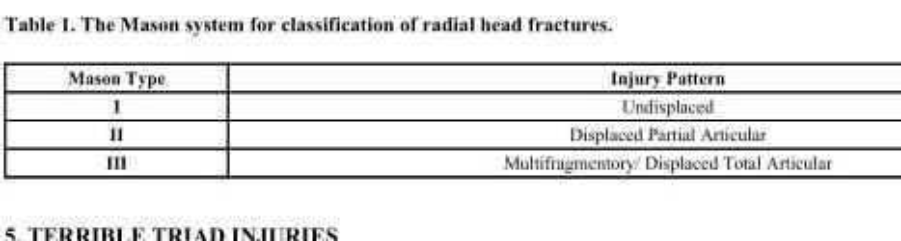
<table><thead><tr><td>Mason Type</td><td>Injury Pattern</td></tr></thead><tbody><tr><td>I</td><td>Undisplaced</td></tr><tr><td>II</td><td>Displaced Partial Articular</td></tr><tr><td>III</td><td>Multifragmentory/ Displaced Total Articular</td></tr></tbody></table>